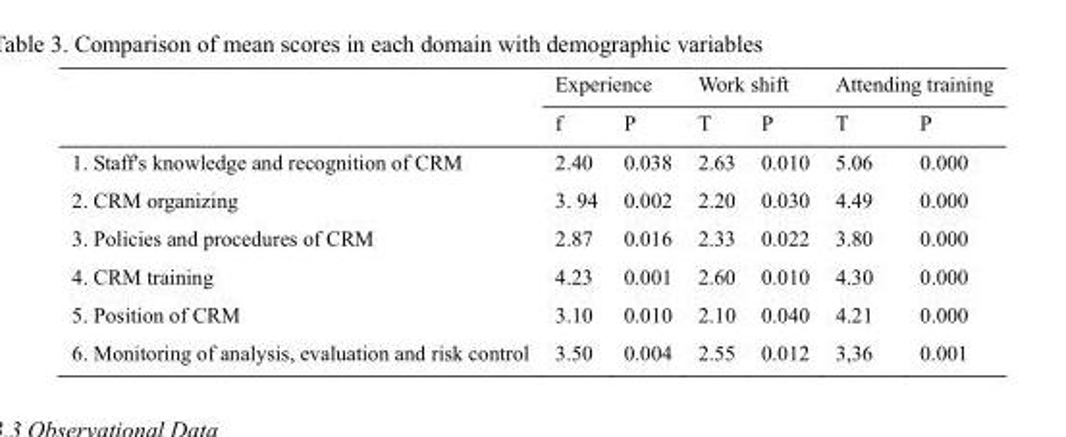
<table><thead><tr><td rowspan="2"></td><td colspan="2">Experience</td><td colspan="2">Work shift</td><td colspan="2">Attending training</td></tr><tr><td>f</td><td>P</td><td>T</td><td>P</td><td>T</td><td>P</td></tr></thead><tbody><tr><td>1. Staff&#x27;s knowledge and recognition of CRM</td><td>2.40</td><td>0.038</td><td>2.63</td><td>0.010</td><td>5.06</td><td>0.000</td></tr><tr><td>2. CRM organizing</td><td>3. 94</td><td>0.002</td><td>2.20</td><td>0.030</td><td>4.49</td><td>0.000</td></tr><tr><td>3. Policies and procedures of CRM</td><td>2.87</td><td>0.016</td><td>2.33</td><td>0.022</td><td>3.80</td><td>0.000</td></tr><tr><td>4. CRM training</td><td>4.23</td><td>0.001</td><td>2.60</td><td>0.010</td><td>4.30</td><td>0.000</td></tr><tr><td>5. Position of CRM</td><td>3.10</td><td>0.010</td><td>2.10</td><td>0.040</td><td>4.21</td><td>0.000</td></tr><tr><td>6. Monitoring of analysis, evaluation and risk control</td><td>3.50</td><td>0.004</td><td>2.55</td><td>0.012</td><td>3,36</td><td>0.001</td></tr></tbody></table>